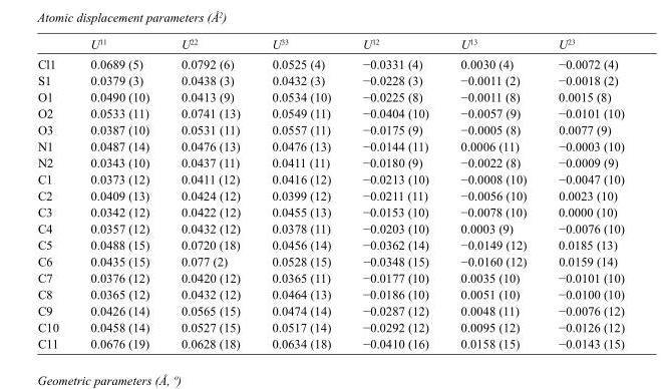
<table><thead><tr><td></td><td>U<sup>11</sup></td><td>U<sup>22</sup></td><td>U<sup>33</sup></td><td>U<sup>12</sup></td><td>U<sup>13</sup></td><td>U<sup>23</sup></td></tr></thead><tbody><tr><td>Cl1</td><td>0.0689 (5)</td><td>0.0792 (6)</td><td>0.0525 (4)</td><td>−0.0331 (4)</td><td>0.0030 (4)</td><td>−0.0072 (4)</td></tr><tr><td>S1</td><td>0.0379 (3)</td><td>0.0438 (3)</td><td>0.0432 (3)</td><td>−0.0228 (3)</td><td>−0.0011 (2)</td><td>−0.0018 (2)</td></tr><tr><td>O1</td><td>0.0490 (10)</td><td>0.0413 (9)</td><td>0.0534 (10)</td><td>−0.0225 (8)</td><td>−0.0011 (8)</td><td>0.0015 (8)</td></tr><tr><td>O2</td><td>0.0533 (11)</td><td>0.0741 (13)</td><td>0.0549 (11)</td><td>−0.0404 (10)</td><td>−0.0057 (9)</td><td>−0.0101 (10)</td></tr><tr><td>O3</td><td>0.0387 (10)</td><td>0.0531 (11)</td><td>0.0557 (11)</td><td>−0.0175 (9)</td><td>−0.0005 (8)</td><td>0.0077 (9)</td></tr><tr><td>N1</td><td>0.0487 (14)</td><td>0.0476 (13)</td><td>0.0476 (13)</td><td>−0.0144 (11)</td><td>0.0006 (11)</td><td>−0.0003 (10)</td></tr><tr><td>N2</td><td>0.0343 (10)</td><td>0.0437 (11)</td><td>0.0411 (11)</td><td>−0.0180 (9)</td><td>−0.0022 (8)</td><td>−0.0009 (9)</td></tr><tr><td>C1</td><td>0.0373 (12)</td><td>0.0411 (12)</td><td>0.0416 (12)</td><td>−0.0213 (10)</td><td>−0.0008 (10)</td><td>−0.0047 (10)</td></tr><tr><td>C2</td><td>0.0409 (13)</td><td>0.0424 (12)</td><td>0.0399 (12)</td><td>−0.0211 (11)</td><td>−0.0056 (10)</td><td>0.0023 (10)</td></tr><tr><td>C3</td><td>0.0342 (12)</td><td>0.0422 (12)</td><td>0.0455 (13)</td><td>−0.0153 (10)</td><td>−0.0078 (10)</td><td>0.0000 (10)</td></tr><tr><td>C4</td><td>0.0357 (12)</td><td>0.0432 (12)</td><td>0.0378 (11)</td><td>−0.0203 (10)</td><td>0.0003 (9)</td><td>−0.0076 (10)</td></tr><tr><td>C5</td><td>0.0488 (15)</td><td>0.0720 (18)</td><td>0.0456 (14)</td><td>−0.0362 (14)</td><td>−0.0149 (12)</td><td>0.0185 (13)</td></tr><tr><td>C6</td><td>0.0435 (15)</td><td>0.077 (2)</td><td>0.0528 (15)</td><td>−0.0348 (15)</td><td>−0.0160 (12)</td><td>0.0159 (14)</td></tr><tr><td>C7</td><td>0.0376 (12)</td><td>0.0420 (12)</td><td>0.0365 (11)</td><td>−0.0177 (10)</td><td>0.0035 (10)</td><td>−0.0101 (10)</td></tr><tr><td>C8</td><td>0.0365 (12)</td><td>0.0432 (12)</td><td>0.0464 (13)</td><td>−0.0186 (10)</td><td>0.0051 (10)</td><td>−0.0100 (10)</td></tr><tr><td>C9</td><td>0.0426 (14)</td><td>0.0565 (15)</td><td>0.0474 (14)</td><td>−0.0287 (12)</td><td>0.0048 (11)</td><td>−0.0076 (12)</td></tr><tr><td>C10</td><td>0.0458 (14)</td><td>0.0527 (15)</td><td>0.0517 (14)</td><td>−0.0292 (12)</td><td>0.0095 (12)</td><td>−0.0126 (12)</td></tr><tr><td>C11</td><td>0.0676 (19)</td><td>0.0628 (18)</td><td>0.0634 (18)</td><td>−0.0410 (16)</td><td>0.0158 (15)</td><td>−0.0143 (15)</td></tr></tbody></table>